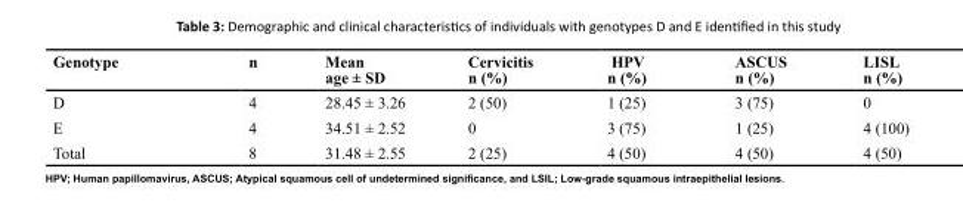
<table><thead><tr><td>Genotype</td><td>n</td><td>Mean age ± SD</td><td>Cervicitis n (%)</td><td>HPV n (%)</td><td>ASCUS n (%)</td><td>LISL n (%)</td></tr></thead><tbody><tr><td>D</td><td>4</td><td>28.45 ± 3.26</td><td>2 (50)</td><td>1 (25)</td><td>3 (75)</td><td>0</td></tr><tr><td>E</td><td>4</td><td>34.51 ± 2.52</td><td>0</td><td>3 (75)</td><td>1 (25)</td><td>4 (100)</td></tr><tr><td>Total</td><td>8</td><td>31.48 ± 2.55</td><td>2 (25)</td><td>4 (50)</td><td>4 (50)</td><td>4 (50)</td></tr></tbody></table>